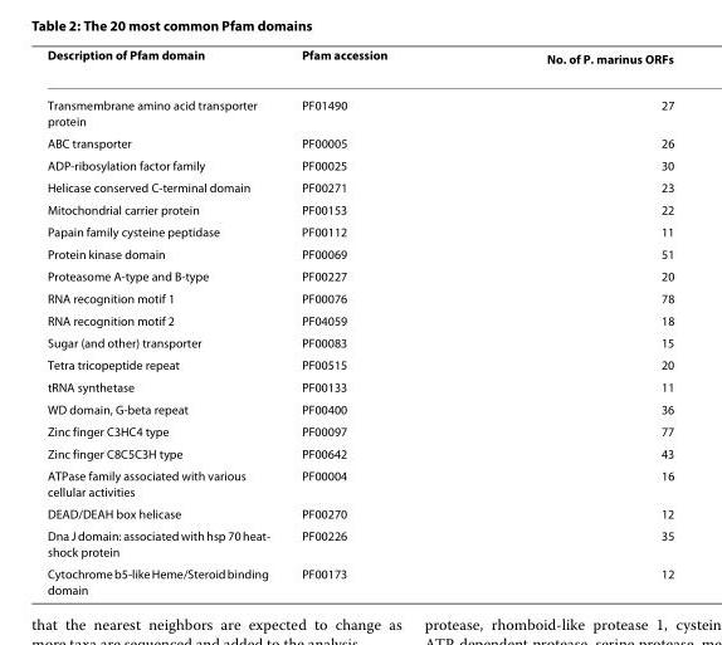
<table><thead><tr><td>Description of Pfam domain</td><td>Pfam accession</td><td>No. of P. marinus ORFs</td></tr></thead><tbody><tr><td>Transmembrane amino acid transporter protein</td><td>PF01490</td><td>27</td></tr><tr><td>ABC transporter</td><td>PF00005</td><td>26</td></tr><tr><td>ADP-ribosylation factor family</td><td>PF00025</td><td>30</td></tr><tr><td>Helicase conserved C-terminal domain</td><td>PF00271</td><td>23</td></tr><tr><td>Mitochondrial carrier protein</td><td>PF00153</td><td>22</td></tr><tr><td>Papain family cysteine peptidase</td><td>PF00112</td><td>11</td></tr><tr><td>Protein kinase domain</td><td>PF00069</td><td>51</td></tr><tr><td>Proteasome A-type and B-type</td><td>PF00227</td><td>20</td></tr><tr><td>RNA recognition motif 1</td><td>PF00076</td><td>78</td></tr><tr><td>RNA recognition motif 2</td><td>PF04059</td><td>18</td></tr><tr><td>Sugar (and other) transporter</td><td>PF00083</td><td>15</td></tr><tr><td>Tetra tricopeptide repeat</td><td>PF00515</td><td>20</td></tr><tr><td>tRNA synthetase</td><td>PF00133</td><td>11</td></tr><tr><td>WD domain, G-beta repeat</td><td>PF00400</td><td>36</td></tr><tr><td>Zinc finger C3HC4 type</td><td>PF00097</td><td>77</td></tr><tr><td>Zinc finger C8C5C3H type</td><td>PF00642</td><td>43</td></tr><tr><td>ATPase family associated with various cellular activities</td><td>PF00004</td><td>16</td></tr><tr><td>DEAD/DEAH box helicase</td><td>PF00270</td><td>12</td></tr><tr><td>Dna J domain: associated with hsp 70 heat- shock protein</td><td>PF00226</td><td>35</td></tr><tr><td>Cytochrome b5-like Heme/Steroid binding domain</td><td>PF00173</td><td>12</td></tr></tbody></table>